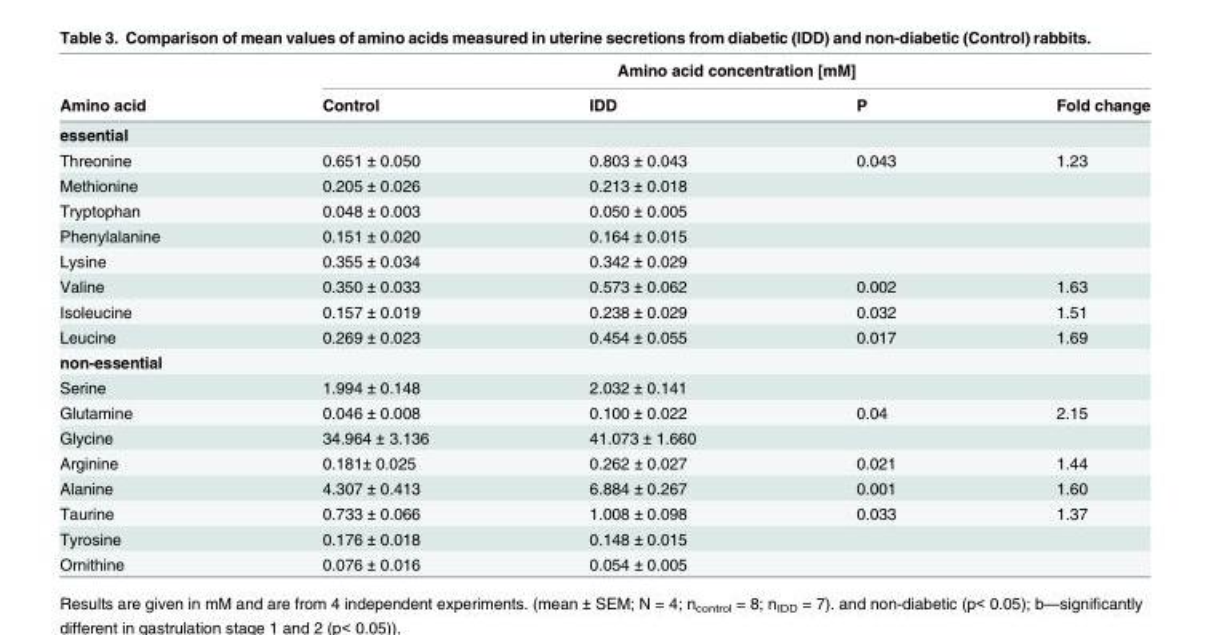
<table><thead><tr><td rowspan="2">Amino acid</td><td colspan="4">Amino acid concentration [mM]</td></tr><tr><td>Control</td><td>IDD</td><td>P</td><td>Fold change</td></tr></thead><tbody><tr><td colspan="5">essential</td></tr><tr><td>Threonine</td><td>0.651 ± 0.050</td><td>0.803 ± 0.043</td><td>0.043</td><td>1.23</td></tr><tr><td>Methionine</td><td>0.205 ± 0.026</td><td>0.213 ± 0.018</td><td></td><td></td></tr><tr><td>Tryptophan</td><td>0.048 ± 0.003</td><td>0.050 ± 0.005</td><td></td><td></td></tr><tr><td>Phenylalanine</td><td>0.151 ± 0.020</td><td>0.164 ± 0.015</td><td></td><td></td></tr><tr><td>Lysine</td><td>0.355 ± 0.034</td><td>0.342 ± 0.029</td><td></td><td></td></tr><tr><td>Valine</td><td>0.350 ± 0.033</td><td>0.573 ± 0.062</td><td>0.002</td><td>1.63</td></tr><tr><td>Isoleucine</td><td>0.157 ± 0.019</td><td>0.238 ± 0.029</td><td>0.032</td><td>1.51</td></tr><tr><td>Leucine</td><td>0.269 ± 0.023</td><td>0.454 ± 0.055</td><td>0.017</td><td>1.69</td></tr><tr><td colspan="5">non-essential</td></tr><tr><td>Serine</td><td>1.994 ± 0.148</td><td>2.032 ± 0.141</td><td></td><td></td></tr><tr><td>Glutamine</td><td>0.046 ± 0.008</td><td>0.100 ± 0.022</td><td>0.04</td><td>2.15</td></tr><tr><td>Glycine</td><td>34.964 ± 3.136</td><td>41.073 ± 1.660</td><td></td><td></td></tr><tr><td>Arginine</td><td>0.181± 0.025</td><td>0.262 ± 0.027</td><td>0.021</td><td>1.44</td></tr><tr><td>Alanine</td><td>4.307 ± 0.413</td><td>6.884 ± 0.267</td><td>0.001</td><td>1.60</td></tr><tr><td>Taurine</td><td>0.733 ± 0.066</td><td>1.008 ± 0.098</td><td>0.033</td><td>1.37</td></tr><tr><td>Tyrosine</td><td>0.176 ± 0.018</td><td>0.148 ± 0.015</td><td></td><td></td></tr><tr><td>Ornithine</td><td>0.076 ± 0.016</td><td>0.054 ± 0.005</td><td></td><td></td></tr></tbody></table>